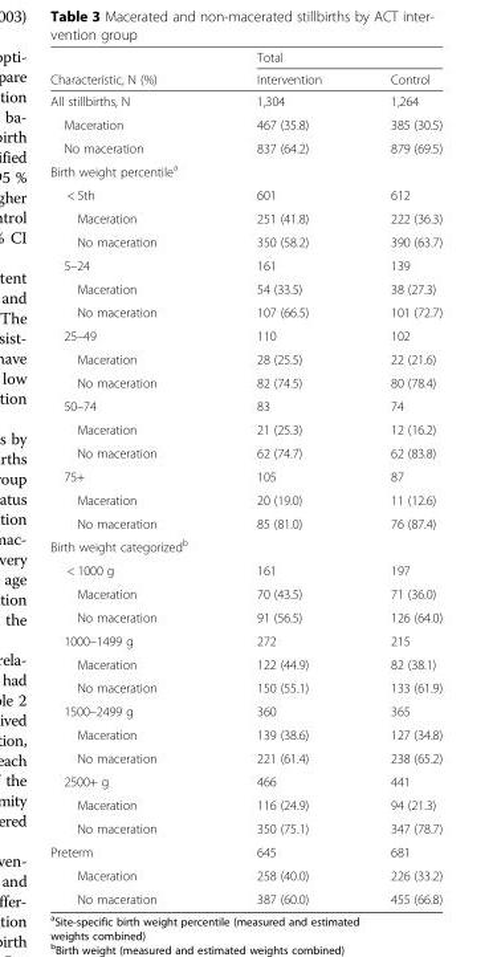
<table><thead><tr><td rowspan="2">Characteristic, N (%)</td><td colspan="2">Total</td></tr><tr><td>Intervention</td><td>Control</td></tr></thead><tbody><tr><td>All stillbirths, N</td><td>1,304</td><td>1,264</td></tr><tr><td>Maceration</td><td>467 (35.8)</td><td>385 (30.5)</td></tr><tr><td>No maceration</td><td>837 (64.2)</td><td>879 (69.5)</td></tr><tr><td colspan="3">Birth weight percentile<sup>a</sup></td></tr><tr><td>&lt; 5th</td><td>601</td><td>612</td></tr><tr><td>Maceration</td><td>251 (41.8)</td><td>222 (36.3)</td></tr><tr><td>No maceration</td><td>350 (58.2)</td><td>390 (63.7)</td></tr><tr><td>5–24</td><td>161</td><td>139</td></tr><tr><td>Maceration</td><td>54 (33.5)</td><td>38 (27.3)</td></tr><tr><td>No maceration</td><td>107 (66.5)</td><td>101 (72.7)</td></tr><tr><td>25–49</td><td>110</td><td>102</td></tr><tr><td>Maceration</td><td>28 (25.5)</td><td>22 (21.6)</td></tr><tr><td>No maceration</td><td>82 (74.5)</td><td>80 (78.4)</td></tr><tr><td>50–74</td><td>83</td><td>74</td></tr><tr><td>Maceration</td><td>21 (25.3)</td><td>12 (16.2)</td></tr><tr><td>No maceration</td><td>62 (74.7)</td><td>62 (83.8)</td></tr><tr><td>75+</td><td>105</td><td>87</td></tr><tr><td>Maceration</td><td>20 (19.0)</td><td>11 (12.6)</td></tr><tr><td>No maceration</td><td>85 (81.0)</td><td>76 (87.4)</td></tr><tr><td colspan="3">Birth weight categorized<sup>b</sup></td></tr><tr><td>&lt; 1000 g</td><td>161</td><td>197</td></tr><tr><td>Maceration</td><td>70 (43.5)</td><td>71 (36.0)</td></tr><tr><td>No maceration</td><td>91 (56.5)</td><td>126 (64.0)</td></tr><tr><td>1000–1499 g</td><td>272</td><td>215</td></tr><tr><td>Maceration</td><td>122 (44.9)</td><td>82 (38.1)</td></tr><tr><td>No maceration</td><td>150 (55.1)</td><td>133 (61.9)</td></tr><tr><td>1500–2499 g</td><td>360</td><td>365</td></tr><tr><td>Maceration</td><td>139 (38.6)</td><td>127 (34.8)</td></tr><tr><td>No maceration</td><td>221 (61.4)</td><td>238 (65.2)</td></tr><tr><td>2500+ g</td><td>466</td><td>441</td></tr><tr><td>Maceration</td><td>116 (24.9)</td><td>94 (21.3)</td></tr><tr><td>No maceration</td><td>350 (75.1)</td><td>347 (78.7)</td></tr><tr><td>Preterm</td><td>645</td><td>681</td></tr><tr><td>Maceration</td><td>258 (40.0)</td><td>226 (33.2)</td></tr><tr><td>No maceration</td><td>387 (60.0)</td><td>455 (66.8)</td></tr></tbody></table>